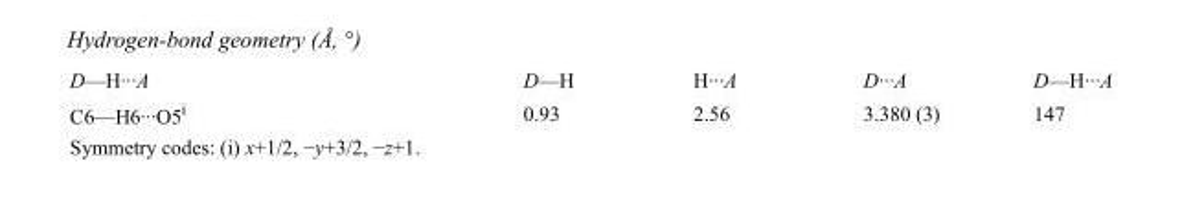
<table><tbody><tr><td>D—H···A</td><td>D—H</td><td>H···A</td><td>D···A</td><td>D—H···A</td></tr><tr><td>C6—H6···O5<sup>i</sup></td><td>0.93</td><td>2.56</td><td>3.380 (3)</td><td>147</td></tr></tbody></table>